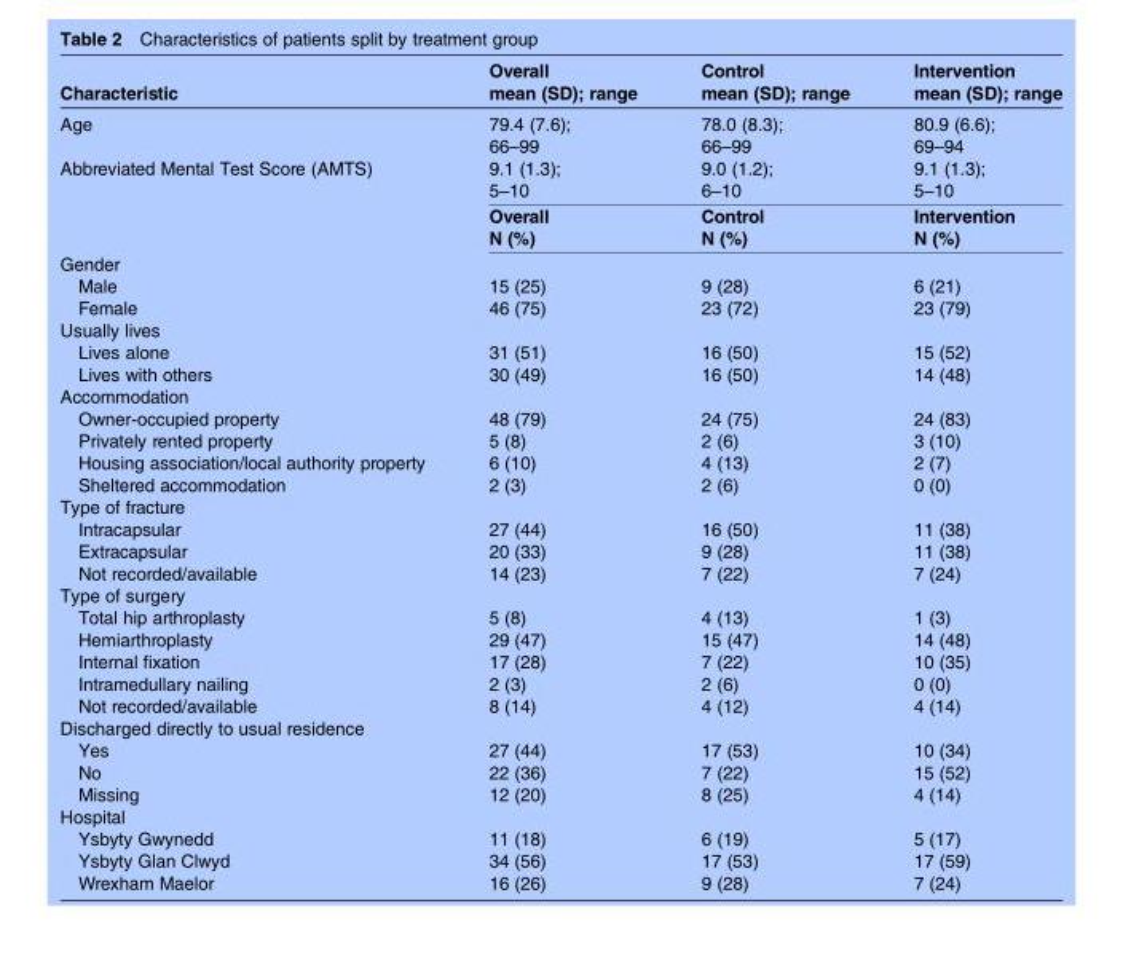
<table><thead><tr><td>Characteristic</td><td>Overall mean (SD); range</td><td>Control mean (SD); range</td><td>Intervention mean (SD); range</td></tr></thead><tbody><tr><td>Age</td><td>79.4 (7.6); 66–99</td><td>78.0 (8.3); 66–99</td><td>80.9 (6.6); 69–94</td></tr><tr><td rowspan="2">Abbreviated Mental Test Score (AMTS)</td><td>9.1 (1.3); 5–10</td><td>9.0 (1.2); 6–10</td><td>9.1 (1.3); 5–10</td></tr><tr><td>Overall N (%)</td><td>Control N (%)</td><td>Intervention N (%)</td></tr><tr><td colspan="4">Gender</td></tr><tr><td>Male</td><td>15 (25)</td><td>9 (28)</td><td>6 (21)</td></tr><tr><td>Female</td><td>46 (75)</td><td>23 (72)</td><td>23 (79)</td></tr><tr><td colspan="4">Usually lives</td></tr><tr><td>Lives alone</td><td>31 (51)</td><td>16 (50)</td><td>15 (52)</td></tr><tr><td>Lives with others</td><td>30 (49)</td><td>16 (50)</td><td>14 (48)</td></tr><tr><td colspan="4">Accommodation</td></tr><tr><td>Owner-occupied property</td><td>48 (79)</td><td>24 (75)</td><td>24 (83)</td></tr><tr><td>Privately rented property</td><td>5 (8)</td><td>2 (6)</td><td>3 (10)</td></tr><tr><td>Housing association/local authority property</td><td>6 (10)</td><td>4 (13)</td><td>2 (7)</td></tr><tr><td>Sheltered accommodation</td><td>2 (3)</td><td>2 (6)</td><td>0 (0)</td></tr><tr><td colspan="4">Type of fracture</td></tr><tr><td>Intracapsular</td><td>27 (44)</td><td>16 (50)</td><td>11 (38)</td></tr><tr><td>Extracapsular</td><td>20 (33)</td><td>9 (28)</td><td>11 (38)</td></tr><tr><td>Not recorded/available</td><td>14 (23)</td><td>7 (22)</td><td>7 (24)</td></tr><tr><td colspan="4">Type of surgery</td></tr><tr><td>Total hip arthroplasty</td><td>5 (8)</td><td>4 (13)</td><td>1 (3)</td></tr><tr><td>Hemiarthroplasty</td><td>29 (47)</td><td>15 (47)</td><td>14 (48)</td></tr><tr><td>Internal fixation</td><td>17 (28)</td><td>7 (22)</td><td>10 (35)</td></tr><tr><td>Intramedullary nailing</td><td>2 (3)</td><td>2 (6)</td><td>0 (0)</td></tr><tr><td>Not recorded/available</td><td>8 (14)</td><td>4 (12)</td><td>4 (14)</td></tr><tr><td colspan="4">Discharged directly to usual residence</td></tr><tr><td>Yes</td><td>27 (44)</td><td>17 (53)</td><td>10 (34)</td></tr><tr><td>No</td><td>22 (36)</td><td>7 (22)</td><td>15 (52)</td></tr><tr><td>Missing</td><td>12 (20)</td><td>8 (25)</td><td>4 (14)</td></tr><tr><td colspan="4">Hospital</td></tr><tr><td>Ysbyty Gwynedd</td><td>11 (18)</td><td>6 (19)</td><td>5 (17)</td></tr><tr><td>Ysbyty Glan Clwyd</td><td>34 (56)</td><td>17 (53)</td><td>17 (59)</td></tr><tr><td>Wrexham Maelor</td><td>16 (26)</td><td>9 (28)</td><td>7 (24)</td></tr></tbody></table>